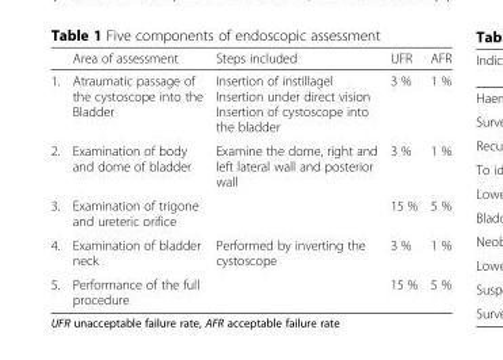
<table><thead><tr><td></td><td>Area of assessment</td><td>Steps included</td><td>UFR</td><td>AFR</td></tr></thead><tbody><tr><td>1.</td><td>Atraumatic passage of the cystoscope into the Bladder</td><td>Insertion of instillagel Insertion under direct vision Insertion of cystoscope into the bladder</td><td>3 %</td><td>1 %</td></tr><tr><td>2.</td><td>Examination of body and dome of bladder</td><td>Examine the dome, right and left lateral wall and posterior wall</td><td>3 %</td><td>1 %</td></tr><tr><td>3.</td><td>Examination of trigone and ureteric orifice</td><td></td><td>15 %</td><td>5 %</td></tr><tr><td>4.</td><td>Examination of bladder neck</td><td>Performed by inverting the cystoscope</td><td>3 %</td><td>1 %</td></tr><tr><td>5.</td><td>Performance of the full procedure</td><td></td><td>15 %</td><td>5 %</td></tr></tbody></table>